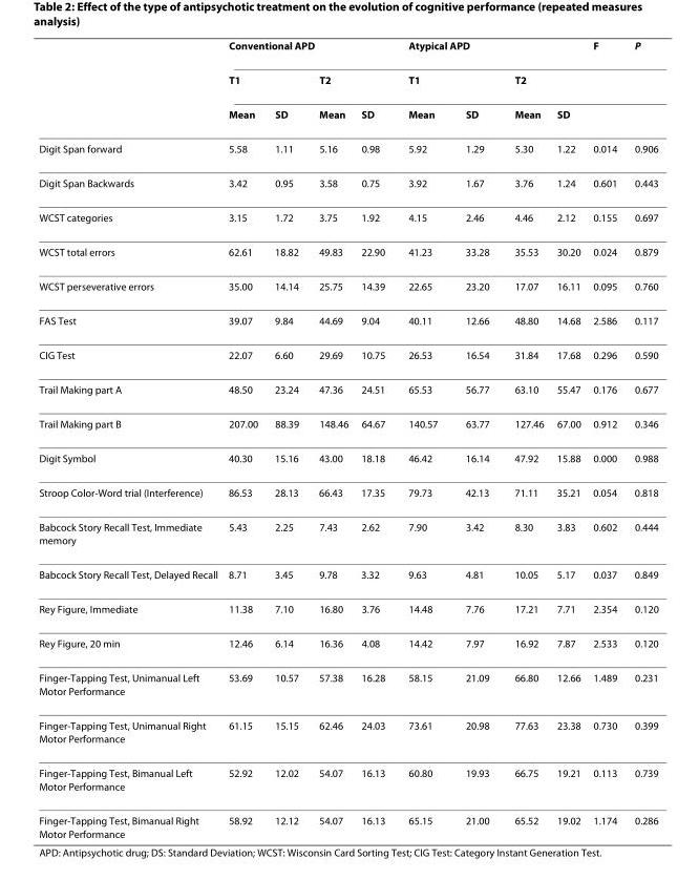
<table><thead><tr><td rowspan="3"></td><td colspan="4">Conventional APD</td><td colspan="4">Atypical APD</td><td rowspan="3">F</td><td rowspan="3">P</td></tr><tr><td colspan="2">T1</td><td colspan="2">T2</td><td colspan="2">T1</td><td colspan="2">T2</td></tr><tr><td>Mean</td><td>SD</td><td>Mean</td><td>SD</td><td>Mean</td><td>SD</td><td>Mean</td><td>SD</td></tr></thead><tbody><tr><td>Digit Span forward</td><td>5.58</td><td>1.11</td><td>5.16</td><td>0.98</td><td>5.92</td><td>1.29</td><td>5.30</td><td>1.22</td><td>0.014</td><td>0.906</td></tr><tr><td>Digit Span Backwards</td><td>3.42</td><td>0.95</td><td>3.58</td><td>0.75</td><td>3.92</td><td>1.67</td><td>3.76</td><td>1.24</td><td>0.601</td><td>0.443</td></tr><tr><td>WCST categories</td><td>3.15</td><td>1.72</td><td>3.75</td><td>1.92</td><td>4.15</td><td>2.46</td><td>4.46</td><td>2.12</td><td>0.155</td><td>0.697</td></tr><tr><td>WCST total errors</td><td>62.61</td><td>18.82</td><td>49.83</td><td>22.90</td><td>41.23</td><td>33.28</td><td>35.53</td><td>30.20</td><td>0.024</td><td>0.879</td></tr><tr><td>WCST perseverative errors</td><td>35.00</td><td>14.14</td><td>25.75</td><td>14.39</td><td>22.65</td><td>23.20</td><td>17.07</td><td>16.11</td><td>0.095</td><td>0.760</td></tr><tr><td>FAS Test</td><td>39.07</td><td>9.84</td><td>44.69</td><td>9.04</td><td>40.11</td><td>12.66</td><td>48.80</td><td>14.68</td><td>2.586</td><td>0.117</td></tr><tr><td>CIG Test</td><td>22.07</td><td>6.60</td><td>29.69</td><td>10.75</td><td>26.53</td><td>16.54</td><td>31.84</td><td>17.68</td><td>0.296</td><td>0.590</td></tr><tr><td>Trail Making part A</td><td>48.50</td><td>23.24</td><td>47.36</td><td>24.51</td><td>65.53</td><td>56.77</td><td>63.10</td><td>55.47</td><td>0.176</td><td>0.677</td></tr><tr><td>Trail Making part B</td><td>207.00</td><td>88.39</td><td>148.46</td><td>64.67</td><td>140.57</td><td>63.77</td><td>127.46</td><td>67.00</td><td>0.912</td><td>0.346</td></tr><tr><td>Digit Symbol</td><td>40.30</td><td>15.16</td><td>43.00</td><td>18.18</td><td>46.42</td><td>16.14</td><td>47.92</td><td>15.88</td><td>0.000</td><td>0.988</td></tr><tr><td>Stroop Color-Word trial (Interference)</td><td>86.53</td><td>28.13</td><td>66.43</td><td>17.35</td><td>79.73</td><td>42.13</td><td>71.11</td><td>35.21</td><td>0.054</td><td>0.818</td></tr><tr><td>Babcock Story Recall Test, Immediate memory</td><td>5.43</td><td>2.25</td><td>7.43</td><td>2.62</td><td>7.90</td><td>3.42</td><td>8.30</td><td>3.83</td><td>0.602</td><td>0.444</td></tr><tr><td>Babcock Story Recall Test, Delayed Recall</td><td>8.71</td><td>3.45</td><td>9.78</td><td>3.32</td><td>9.63</td><td>4.81</td><td>10.05</td><td>5.17</td><td>0.037</td><td>0.849</td></tr><tr><td>Rey Figure, Immediate</td><td>11.38</td><td>7.10</td><td>16.80</td><td>3.76</td><td>14.48</td><td>7.76</td><td>17.21</td><td>7.71</td><td>2.354</td><td>0.120</td></tr><tr><td>Rey Figure, 20 min</td><td>12.46</td><td>6.14</td><td>16.36</td><td>4.08</td><td>14.42</td><td>7.97</td><td>16.92</td><td>7.87</td><td>2.533</td><td>0.120</td></tr><tr><td>Finger-Tapping Test, Unimanual Left Motor Performance</td><td>53.69</td><td>10.57</td><td>57.38</td><td>16.28</td><td>58.15</td><td>21.09</td><td>66.80</td><td>12.66</td><td>1.489</td><td>0.231</td></tr><tr><td>Finger-Tapping Test, Unimanual Right Motor Performance</td><td>61.15</td><td>15.15</td><td>62.46</td><td>24.03</td><td>73.61</td><td>20.98</td><td>77.63</td><td>23.38</td><td>0.730</td><td>0.399</td></tr><tr><td>Finger-Tapping Test, Bimanual Left Motor Performance</td><td>52.92</td><td>12.02</td><td>54.07</td><td>16.13</td><td>60.80</td><td>19.93</td><td>66.75</td><td>19.21</td><td>0.113</td><td>0.739</td></tr><tr><td>Finger-Tapping Test, Bimanual Right Motor Performance</td><td>58.92</td><td>12.12</td><td>54.07</td><td>16.13</td><td>65.15</td><td>21.00</td><td>65.52</td><td>19.02</td><td>1.174</td><td>0.286</td></tr></tbody></table>